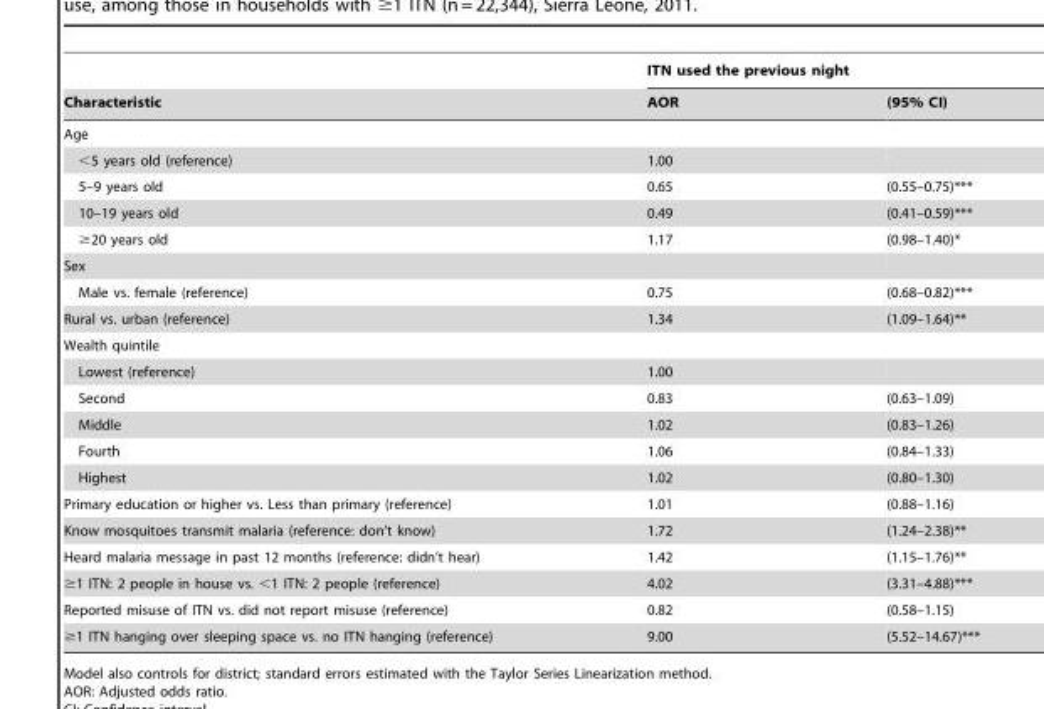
<table><thead><tr><td rowspan="2">Characteristic</td><td colspan="2">ITN used the previous night</td></tr><tr><td>AOR</td><td>(95% CI)</td></tr></thead><tbody><tr><td colspan="3">Age</td></tr><tr><td>&lt;5 years old (reference)</td><td>1.00</td><td></td></tr><tr><td>5–9 years old</td><td>0.65</td><td>(0.55–0.75)***</td></tr><tr><td>10–19 years old</td><td>0.49</td><td>(0.41–0.59)***</td></tr><tr><td>≥20 years old</td><td>1.17</td><td>(0.98–1.40)*</td></tr><tr><td colspan="3">Sex</td></tr><tr><td>Male vs. female (reference)</td><td>0.75</td><td>(0.68–0.82)***</td></tr><tr><td>Rural vs. urban (reference)</td><td>1.34</td><td>(1.09–1.64)**</td></tr><tr><td colspan="3">Wealth quintile</td></tr><tr><td>Lowest (reference)</td><td>1.00</td><td></td></tr><tr><td>Second</td><td>0.83</td><td>(0.63–1.09)</td></tr><tr><td>Middle</td><td>1.02</td><td>(0.83–1.26)</td></tr><tr><td>Fourth</td><td>1.06</td><td>(0.84–1.33)</td></tr><tr><td>Highest</td><td>1.02</td><td>(0.80–1.30)</td></tr><tr><td>Primary education or higher vs. Less than primary (reference)</td><td>1.01</td><td>(0.88–1.16)</td></tr><tr><td>Know mosquitoes transmit malaria (reference: don’t know)</td><td>1.72</td><td>(1.24–2.38)**</td></tr><tr><td>Heard malaria message in past 12 months (reference: didn’t hear)</td><td>1.42</td><td>(1.15–1.76)**</td></tr><tr><td>≥1 ITN: 2 people in house vs. &lt;1 ITN: 2 people (reference)</td><td>4.02</td><td>(3.31–4.88)***</td></tr><tr><td>Reported misuse of ITN vs. did not report misuse (reference)</td><td>0.82</td><td>(0.58–1.15)</td></tr><tr><td>≥1 ITN hanging over sleeping space vs. no ITN hanging (reference)</td><td>9.00</td><td>(5.52–14.67)***</td></tr></tbody></table>